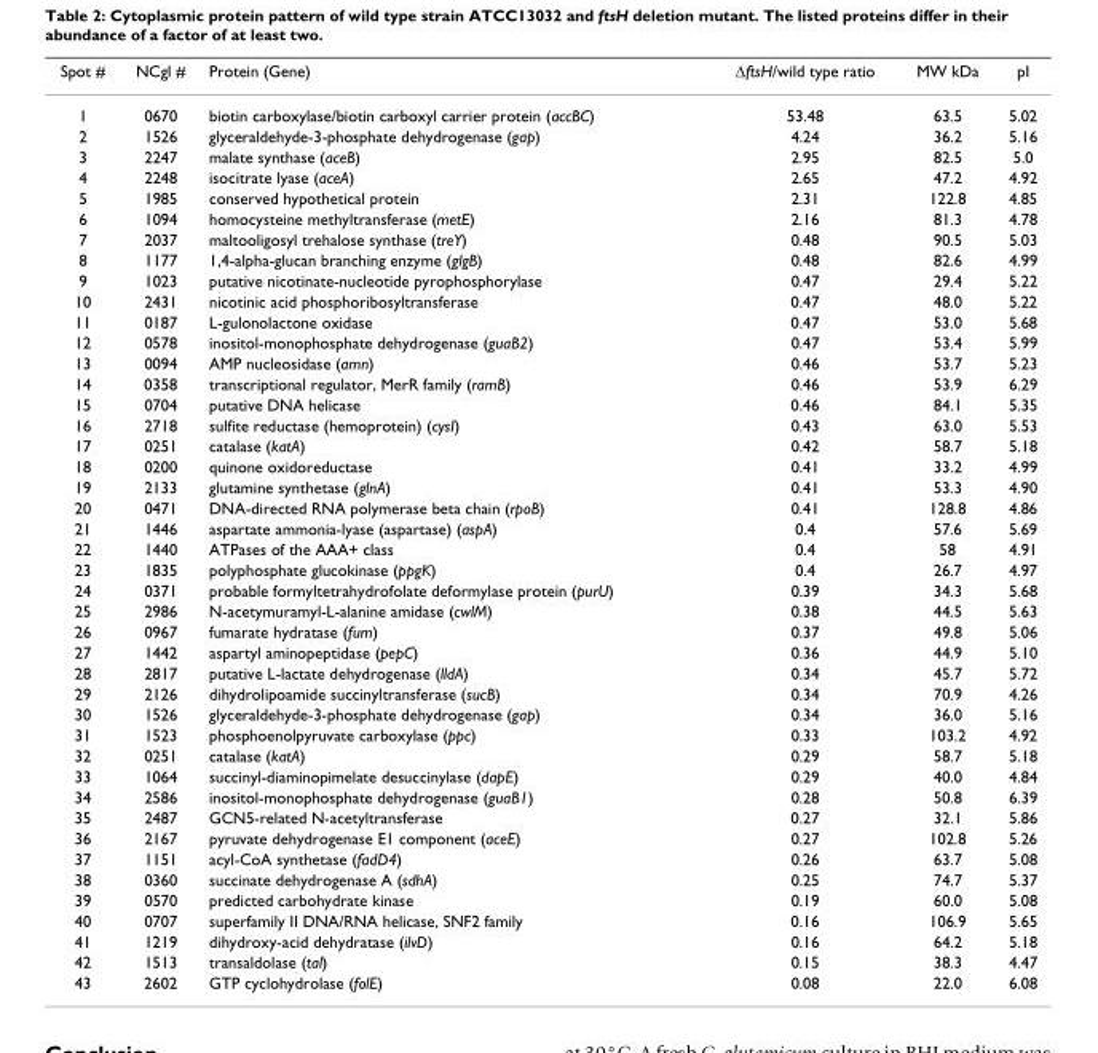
<table><thead><tr><td>Spot #</td><td>NCgl #</td><td>Protein (Gene)</td><td>∆ftsH/wild type ratio</td><td>MW kDa</td><td>pI</td></tr></thead><tbody><tr><td>1</td><td>0670</td><td>biotin carboxylase/biotin carboxyl carrier protein (accBC)</td><td>53.48</td><td>63.5</td><td>5.02</td></tr><tr><td>2</td><td>1526</td><td>glyceraldehyde-3-phosphate dehydrogenase (gap)</td><td>4.24</td><td>36.2</td><td>5.16</td></tr><tr><td>3</td><td>2247</td><td>malate synthase (aceB)</td><td>2.95</td><td>82.5</td><td>5.0</td></tr><tr><td>4</td><td>2248</td><td>isocitrate lyase (aceA)</td><td>2.65</td><td>47.2</td><td>4.92</td></tr><tr><td>5</td><td>1985</td><td>conserved hypothetical protein</td><td>2.31</td><td>122.8</td><td>4.85</td></tr><tr><td>6</td><td>1094</td><td>homocysteine methyltransferase (metE)</td><td>2.16</td><td>81.3</td><td>4.78</td></tr><tr><td>7</td><td>2037</td><td>maltooligosyl trehalose synthase (treY)</td><td>0.48</td><td>90.5</td><td>5.03</td></tr><tr><td>8</td><td>1177</td><td>1,4-alpha-glucan branching enzyme (glgB)</td><td>0.48</td><td>82.6</td><td>4.99</td></tr><tr><td>9</td><td>1023</td><td>putative nicotinate-nucleotide pyrophosphorylase</td><td>0.47</td><td>29.4</td><td>5.22</td></tr><tr><td>10</td><td>2431</td><td>nicotinic acid phosphoribosyltransferase</td><td>0.47</td><td>48.0</td><td>5.22</td></tr><tr><td>11</td><td>0187</td><td>L-gulonolactone oxidase</td><td>0.47</td><td>53.0</td><td>5.68</td></tr><tr><td>12</td><td>0578</td><td>inositol-monophosphate dehydrogenase (guaB2)</td><td>0.47</td><td>53.4</td><td>5.99</td></tr><tr><td>13</td><td>0094</td><td>AMP nucleosidase (amn)</td><td>0.46</td><td>53.7</td><td>5.23</td></tr><tr><td>14</td><td>0358</td><td>transcriptional regulator, MerR family (ramB)</td><td>0.46</td><td>53.9</td><td>6.29</td></tr><tr><td>15</td><td>0704</td><td>putative DNA helicase</td><td>0.46</td><td>84.1</td><td>5.35</td></tr><tr><td>16</td><td>2718</td><td>sulfite reductase (hemoprotein) (cysI)</td><td>0.43</td><td>63.0</td><td>5.53</td></tr><tr><td>17</td><td>0251</td><td>catalase (katA)</td><td>0.42</td><td>58.7</td><td>5.18</td></tr><tr><td>18</td><td>0200</td><td>quinone oxidoreductase</td><td>0.41</td><td>33.2</td><td>4.99</td></tr><tr><td>19</td><td>2133</td><td>glutamine synthetase (glnA)</td><td>0.41</td><td>53.3</td><td>4.90</td></tr><tr><td>20</td><td>0471</td><td>DNA-directed RNA polymerase beta chain (rpoB)</td><td>0.41</td><td>128.8</td><td>4.86</td></tr><tr><td>21</td><td>1446</td><td>aspartate ammonia-lyase (aspartase) (aspA)</td><td>0.4</td><td>57.6</td><td>5.69</td></tr><tr><td>22</td><td>1440</td><td>ATPases of the AAA+ class</td><td>0.4</td><td>58</td><td>4.91</td></tr><tr><td>23</td><td>1835</td><td>polyphosphate glucokinase (ppgK)</td><td>0.4</td><td>26.7</td><td>4.97</td></tr><tr><td>24</td><td>0371</td><td>probable formyltetrahydrofolate deformylase protein (purU)</td><td>0.39</td><td>34.3</td><td>5.68</td></tr><tr><td>25</td><td>2986</td><td>N-acetymuramyl-L-alanine amidase (cwlM)</td><td>0.38</td><td>44.5</td><td>5.63</td></tr><tr><td>26</td><td>0967</td><td>fumarate hydratase (fum)</td><td>0.37</td><td>49.8</td><td>5.06</td></tr><tr><td>27</td><td>1442</td><td>aspartyl aminopeptidase (pepC)</td><td>0.36</td><td>44.9</td><td>5.10</td></tr><tr><td>28</td><td>2817</td><td>putative L-lactate dehydrogenase (lldA)</td><td>0.34</td><td>45.7</td><td>5.72</td></tr><tr><td>29</td><td>2126</td><td>dihydrolipoamide succinyltransferase (sucB)</td><td>0.34</td><td>70.9</td><td>4.26</td></tr><tr><td>30</td><td>1526</td><td>glyceraldehyde-3-phosphate dehydrogenase (gap)</td><td>0.34</td><td>36.0</td><td>5.16</td></tr><tr><td>31</td><td>1523</td><td>phosphoenolpyruvate carboxylase (ppc)</td><td>0.33</td><td>103.2</td><td>4.92</td></tr><tr><td>32</td><td>0251</td><td>catalase (katA)</td><td>0.29</td><td>58.7</td><td>5.18</td></tr><tr><td>33</td><td>1064</td><td>succinyl-diaminopimelate desuccinylase (dapE)</td><td>0.29</td><td>40.0</td><td>4.84</td></tr><tr><td>34</td><td>2586</td><td>inositol-monophosphate dehydrogenase (guaB1)</td><td>0.28</td><td>50.8</td><td>6.39</td></tr><tr><td>35</td><td>2487</td><td>GCN5-related N-acetyltransferase</td><td>0.27</td><td>32.1</td><td>5.86</td></tr><tr><td>36</td><td>2167</td><td>pyruvate dehydrogenase E1 component (aceE)</td><td>0.27</td><td>102.8</td><td>5.26</td></tr><tr><td>37</td><td>1151</td><td>acyl-CoA synthetase (fadD4)</td><td>0.26</td><td>63.7</td><td>5.08</td></tr><tr><td>38</td><td>0360</td><td>succinate dehydrogenase A (sdhA)</td><td>0.25</td><td>74.7</td><td>5.37</td></tr><tr><td>39</td><td>0570</td><td>predicted carbohydrate kinase</td><td>0.19</td><td>60.0</td><td>5.08</td></tr><tr><td>40</td><td>0707</td><td>superfamily II DNA/RNA helicase, SNF2 family</td><td>0.16</td><td>106.9</td><td>5.65</td></tr><tr><td>41</td><td>1219</td><td>dihydroxy-acid dehydratase (ilvD)</td><td>0.16</td><td>64.2</td><td>5.18</td></tr><tr><td>42</td><td>1513</td><td>transaldolase (tal)</td><td>0.15</td><td>38.3</td><td>4.47</td></tr><tr><td>43</td><td>2602</td><td>GTP cyclohydrolase (folE)</td><td>0.08</td><td>22.0</td><td>6.08</td></tr></tbody></table>